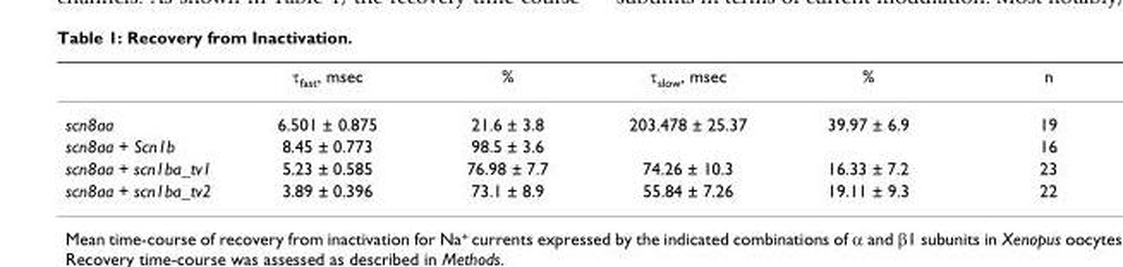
<table><thead><tr><td></td><td>τ<sub>fast</sub>, msec</td><td>%</td><td>τ<sub>slow</sub>, msec</td><td>%</td><td>n</td></tr></thead><tbody><tr><td>scn8aa</td><td>6.501 ± 0.875</td><td>21.6 ± 3.8</td><td>203.478 ± 25.37</td><td>39.97 ± 6.9</td><td>19</td></tr><tr><td>scn8aa + Scn1b</td><td>8.45 ± 0.773</td><td>98.5 ± 3.6</td><td></td><td></td><td>16</td></tr><tr><td>scn8aa + scn1ba_tv1</td><td>5.23 ± 0.585</td><td>76.98 ± 7.7</td><td>74.26 ± 10.3</td><td>16.33 ± 7.2</td><td>23</td></tr><tr><td>scn8aa + scn1ba_tv2</td><td>3.89 ± 0.396</td><td>73.1 ± 8.9</td><td>55.84 ± 7.26</td><td>19.11 ± 9.3</td><td>22</td></tr></tbody></table>